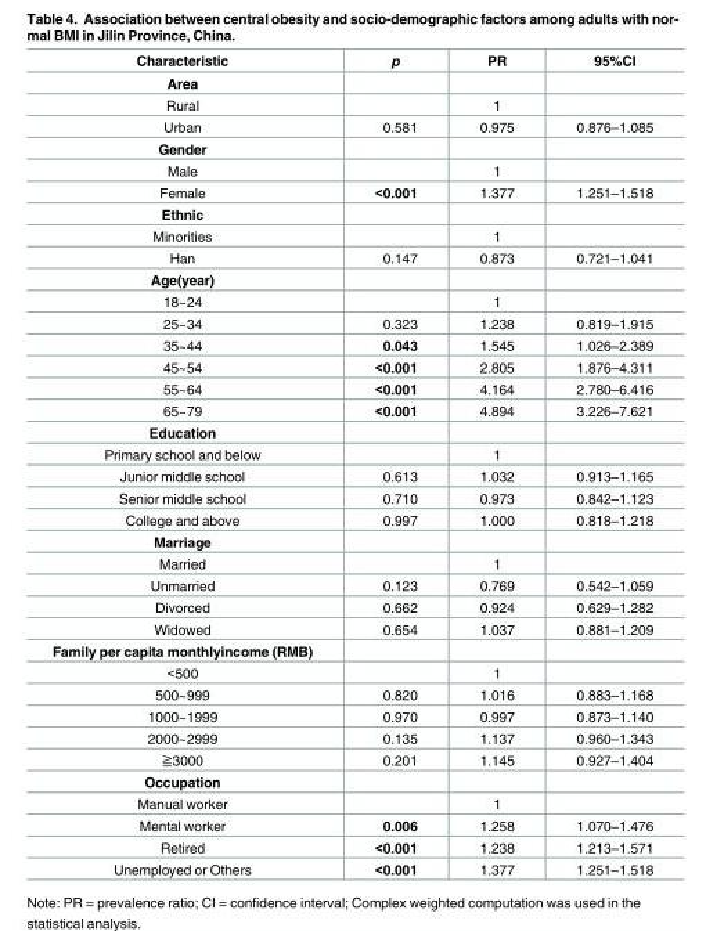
<table><thead><tr><td>Characteristic</td><td>p</td><td>PR</td><td>95%CI</td></tr></thead><tbody><tr><td colspan="4">Area</td></tr><tr><td>Rural</td><td></td><td>1</td><td></td></tr><tr><td>Urban</td><td>0.581</td><td>0.975</td><td>0.876–1.085</td></tr><tr><td colspan="4">Gender</td></tr><tr><td>Male</td><td></td><td>1</td><td></td></tr><tr><td>Female</td><td>&lt;0.001</td><td>1.377</td><td>1.251–1.518</td></tr><tr><td colspan="4">Ethnic</td></tr><tr><td>Minorities</td><td></td><td>1</td><td></td></tr><tr><td>Han</td><td>0.147</td><td>0.873</td><td>0.721–1.041</td></tr><tr><td colspan="4">Age(year)</td></tr><tr><td>18~24</td><td></td><td>1</td><td></td></tr><tr><td>25~34</td><td>0.323</td><td>1.238</td><td>0.819–1.915</td></tr><tr><td>35~44</td><td>0.043</td><td>1.545</td><td>1.026–2.389</td></tr><tr><td>45~54</td><td>&lt;0.001</td><td>2.805</td><td>1.876–4.311</td></tr><tr><td>55~64</td><td>&lt;0.001</td><td>4.164</td><td>2.780–6.416</td></tr><tr><td>65~79</td><td>&lt;0.001</td><td>4.894</td><td>3.226–7.621</td></tr><tr><td colspan="4">Education</td></tr><tr><td>Primary school and below</td><td></td><td>1</td><td></td></tr><tr><td>Junior middle school</td><td>0.613</td><td>1.032</td><td>0.913–1.165</td></tr><tr><td>Senior middle school</td><td>0.710</td><td>0.973</td><td>0.842–1.123</td></tr><tr><td>College and above</td><td>0.997</td><td>1.000</td><td>0.818–1.218</td></tr><tr><td colspan="4">Marriage</td></tr><tr><td>Married</td><td></td><td>1</td><td></td></tr><tr><td>Unmarried</td><td>0.123</td><td>0.769</td><td>0.542–1.059</td></tr><tr><td>Divorced</td><td>0.662</td><td>0.924</td><td>0.629–1.282</td></tr><tr><td>Widowed</td><td>0.654</td><td>1.037</td><td>0.881–1.209</td></tr><tr><td colspan="4">Family per capita monthlyincome (RMB)</td></tr><tr><td>&lt;500</td><td></td><td>1</td><td></td></tr><tr><td>500~999</td><td>0.820</td><td>1.016</td><td>0.883–1.168</td></tr><tr><td>1000~1999</td><td>0.970</td><td>0.997</td><td>0.873–1.140</td></tr><tr><td>2000~2999</td><td>0.135</td><td>1.137</td><td>0.960–1.343</td></tr><tr><td>≧3000</td><td>0.201</td><td>1.145</td><td>0.927–1.404</td></tr><tr><td colspan="4">Occupation</td></tr><tr><td>Manual worker</td><td></td><td>1</td><td></td></tr><tr><td>Mental worker</td><td>0.006</td><td>1.258</td><td>1.070–1.476</td></tr><tr><td>Retired</td><td>&lt;0.001</td><td>1.238</td><td>1.213–1.571</td></tr><tr><td>Unemployed or Others</td><td>&lt;0.001</td><td>1.377</td><td>1.251–1.518</td></tr></tbody></table>